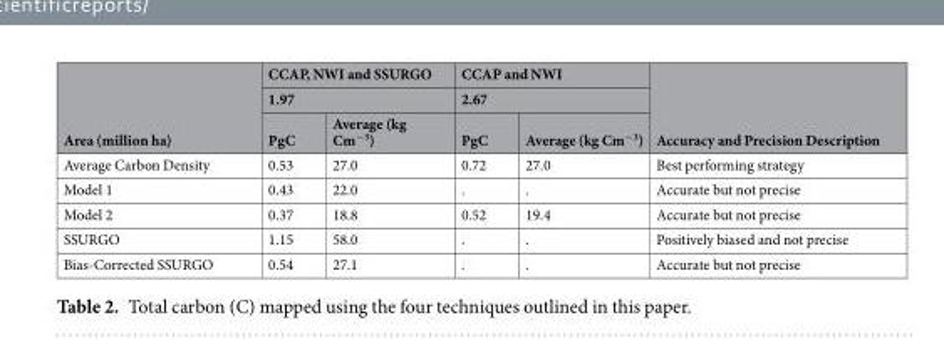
<table><thead><tr><td rowspan="3">Area (million ha)</td><td rowspan="2" colspan="2">CCAP, NWI and SSURGO 1.97</td><td rowspan="2" colspan="2">CCAP and NWI 2.67</td><td rowspan="3">Accuracy and Precision Description</td></tr><tr></tr><tr><td>PgC</td><td>Average (kg Cm<sup>−3</sup>)</td><td>PgC</td><td>Average (kg Cm<sup>−3</sup>)</td></tr></thead><tbody><tr><td>Average Carbon Density</td><td>0.53</td><td>27.0</td><td>0.72</td><td>27.0</td><td>Best performing strategy</td></tr><tr><td>Model 1</td><td>0.43</td><td>22.0</td><td>.</td><td>.</td><td>Accurate but not precise</td></tr><tr><td>Model 2</td><td>0.37</td><td>18.8</td><td>0.52</td><td>19.4</td><td>Accurate but not precise</td></tr><tr><td>SSURGO</td><td>1.15</td><td>58.0</td><td>.</td><td>.</td><td>Positively biased and not precise</td></tr><tr><td>Bias-Corrected SSURGO</td><td>0.54</td><td>27.1</td><td>.</td><td>.</td><td>Accurate but not precise</td></tr></tbody></table>